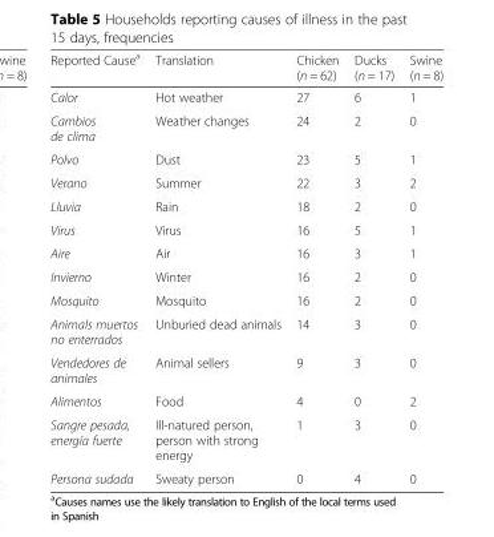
<table><thead><tr><td>Reported Cause<sup>a</sup></td><td>Translation</td><td>Chicken (n = 62)</td><td>Ducks (n = 17)</td><td>Swine (n = 8)</td></tr></thead><tbody><tr><td>Calor</td><td>Hot weather</td><td>27</td><td>6</td><td>1</td></tr><tr><td>Cambios de clima</td><td>Weather changes</td><td>24</td><td>2</td><td>0</td></tr><tr><td>Polvo</td><td>Dust</td><td>23</td><td>5</td><td>1</td></tr><tr><td>Verano</td><td>Summer</td><td>22</td><td>3</td><td>2</td></tr><tr><td>Lluvia</td><td>Rain</td><td>18</td><td>2</td><td>0</td></tr><tr><td>Virus</td><td>Virus</td><td>16</td><td>5</td><td>1</td></tr><tr><td>Aire</td><td>Air</td><td>16</td><td>3</td><td>1</td></tr><tr><td>Invierno</td><td>Winter</td><td>16</td><td>2</td><td>0</td></tr><tr><td>Mosquito</td><td>Mosquito</td><td>16</td><td>2</td><td>0</td></tr><tr><td>Animals muertos no enterrados</td><td>Unburied dead animals</td><td>14</td><td>3</td><td>0</td></tr><tr><td>Vendedores de animales</td><td>Animal sellers</td><td>9</td><td>3</td><td>0</td></tr><tr><td>Alimentos</td><td>Food</td><td>4</td><td>0</td><td>2</td></tr><tr><td>Sangre pesada, energía fuerte</td><td>Ill-natured person, person with strong energy</td><td>1</td><td>3</td><td>0</td></tr><tr><td>Persona sudada</td><td>Sweaty person</td><td>0</td><td>4</td><td>0</td></tr></tbody></table>